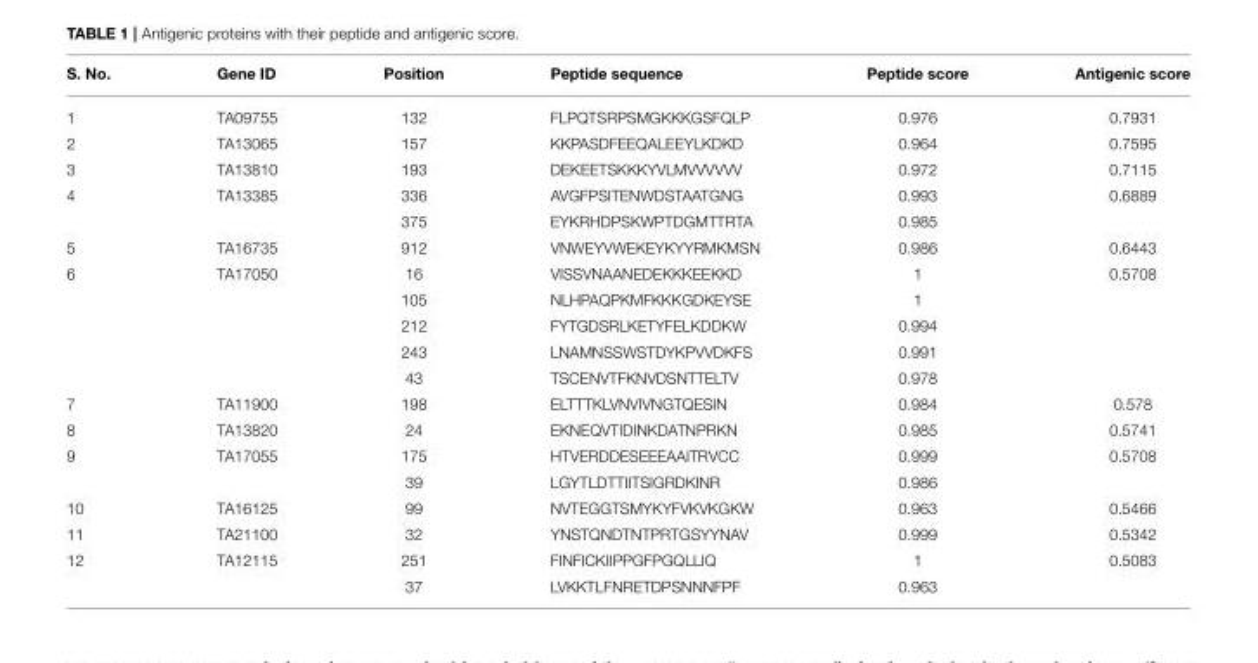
<table><thead><tr><td>S. No.</td><td>Gene ID</td><td>Position</td><td>Peptide sequence</td><td>Peptide score</td><td>Antigenic score</td></tr></thead><tbody><tr><td>1</td><td>TA09755</td><td>132</td><td>FLPQTSRPSMGKKKGSFQLP</td><td>0.976</td><td>0.7931</td></tr><tr><td>2</td><td>TA13065</td><td>157</td><td>KKPASDFEEQALEEYLKDKD</td><td>0.964</td><td>0.7595</td></tr><tr><td>3</td><td>TA13810</td><td>193</td><td>DEKEETSKKKYVLMVVVVVV</td><td>0.972</td><td>0.7115</td></tr><tr><td rowspan="2">4</td><td>TA13385</td><td>336</td><td>AVGFPSITENWDSTAATGNG</td><td>0.993</td><td>0.6889</td></tr><tr><td></td><td>375</td><td>EYKRHDPSKWPTDGMTTRTA</td><td>0.985</td><td></td></tr><tr><td>5</td><td>TA16735</td><td>912</td><td>VNWEYVWEKEYKYYRMKMSN</td><td>0.986</td><td>0.6443</td></tr><tr><td rowspan="5">6</td><td>TA17050</td><td>16</td><td>VISSVNAANEDEKKKEEKKD</td><td>1</td><td>0.5708</td></tr><tr><td></td><td>105</td><td>NLHPAQPKMFKKKGDKEYSE</td><td>1</td><td></td></tr><tr><td></td><td>212</td><td>FYTGDSRLKETYFELKDDKW</td><td>0.994</td><td></td></tr><tr><td></td><td>243</td><td>LNAMNSSWSTDYKPVVDKFS</td><td>0.991</td><td></td></tr><tr><td></td><td>43</td><td>TSCENVTFKNVDSNTTELTV</td><td>0.978</td><td></td></tr><tr><td>7</td><td>TA11900</td><td>198</td><td>ELTTTKLVNVIVNGTQESIN</td><td>0.984</td><td>0.578</td></tr><tr><td>8</td><td>TA13820</td><td>24</td><td>EKNEQVTIDINKDATNPRKN</td><td>0.985</td><td>0.5741</td></tr><tr><td rowspan="2">9</td><td>TA17055</td><td>175</td><td>HTVERDDESEEEAAITRVCC</td><td>0.999</td><td>0.5708</td></tr><tr><td></td><td>39</td><td>LGYTLDTTIITSIGRDKINR</td><td>0.986</td><td></td></tr><tr><td>10</td><td>TA16125</td><td>99</td><td>NVTEGGTSMYKYFVKVKGKW</td><td>0.963</td><td>0.5466</td></tr><tr><td>11</td><td>TA21100</td><td>32</td><td>YNSTQNDTNTPRTGSYYNAV</td><td>0.999</td><td>0.5342</td></tr><tr><td rowspan="2">12</td><td>TA12115</td><td>251</td><td>FINFICKIIPPGFPGQLLIQ</td><td>1</td><td>0.5083</td></tr><tr><td></td><td>37</td><td>LVKKTLFNRETDPSNNNFPF</td><td>0.963</td><td></td></tr></tbody></table>